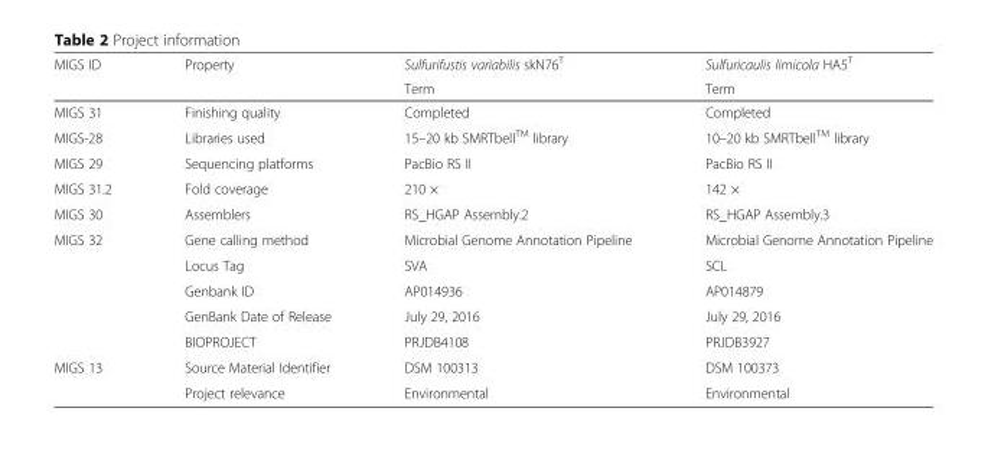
<table><thead><tr><td rowspan="2">MIGS ID</td><td rowspan="2">Property</td><td rowspan="2">Sulfurifustis variabilis skN76<sup>T</sup> Term</td><td rowspan="2">Sulfuricaulis limicola HA5<sup>T</sup> Term</td></tr><tr></tr></thead><tbody><tr><td>MIGS 31</td><td>Finishing quality</td><td>Completed</td><td>Completed</td></tr><tr><td>MIGS-28</td><td>Libraries used</td><td>15–20 kb SMRTbell<sup>TM</sup> library</td><td>10–20 kb SMRTbell<sup>TM</sup> library</td></tr><tr><td>MIGS 29</td><td>Sequencing platforms</td><td>PacBio RS II</td><td>PacBio RS II</td></tr><tr><td>MIGS 31.2</td><td>Fold coverage</td><td>210 ×</td><td>142 ×</td></tr><tr><td>MIGS 30</td><td>Assemblers</td><td>RS_HGAP Assembly.2</td><td>RS_HGAP Assembly.3</td></tr><tr><td rowspan="5">MIGS 32</td><td>Gene calling method</td><td>Microbial Genome Annotation Pipeline</td><td>Microbial Genome Annotation Pipeline</td></tr><tr><td>Locus Tag</td><td>SVA</td><td>SCL</td></tr><tr><td>Genbank ID</td><td>AP014936</td><td>AP014879</td></tr><tr><td>GenBank Date of Release</td><td>July 29, 2016</td><td>July 29, 2016</td></tr><tr><td>BIOPROJECT</td><td>PRJDB4108</td><td>PRJDB3927</td></tr><tr><td rowspan="2">MIGS 13</td><td>Source Material Identifier</td><td>DSM 100313</td><td>DSM 100373</td></tr><tr><td>Project relevance</td><td>Environmental</td><td>Environmental</td></tr></tbody></table>